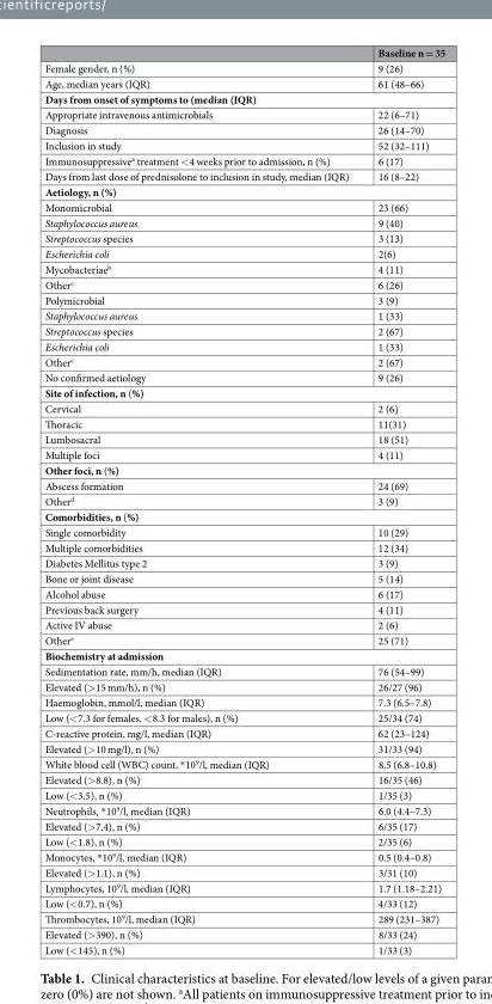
<table><thead><tr><td></td><td>Baseline n = 35</td></tr></thead><tbody><tr><td>Female gender, n (%)</td><td>9 (26)</td></tr><tr><td>Age, median years (IQR)</td><td>61 (48–66)</td></tr><tr><td colspan="2">Days from onset of symptoms to (median (IQR)</td></tr><tr><td>Appropriate intravenous antimicrobials</td><td>22 (6–71)</td></tr><tr><td>Diagnosis</td><td>26 (14–70)</td></tr><tr><td>Inclusion in study</td><td>52 (32–111)</td></tr><tr><td>Immunosuppressive<sup>a</sup> treatment &lt;4 weeks prior to admission, n (%)</td><td>6 (17)</td></tr><tr><td>Days from last dose of prednisolone to inclusion in study, median (IQR)</td><td>16 (8–22)</td></tr><tr><td colspan="2">Aetiology, n (%)</td></tr><tr><td>Monomicrobial</td><td>23 (66)</td></tr><tr><td>Staphylococcus aureus</td><td>9 (40)</td></tr><tr><td>Streptococcus species</td><td>3 (13)</td></tr><tr><td>Escherichia coli</td><td>2(6)</td></tr><tr><td>Mycobacteriae<sup>b</sup></td><td>4 (11)</td></tr><tr><td>Other<sup>c</sup></td><td>6 (26)</td></tr><tr><td>Polymicrobial</td><td>3 (9)</td></tr><tr><td>Staphylococcus aureus</td><td>1 (33)</td></tr><tr><td>Streptococcus species</td><td>2 (67)</td></tr><tr><td>Escherichia coli</td><td>1 (33)</td></tr><tr><td>Other<sup>c</sup></td><td>2 (67)</td></tr><tr><td>No confirmed aetiology</td><td>9 (26)</td></tr><tr><td colspan="2">Site of infection, n (%)</td></tr><tr><td>Cervical</td><td>2 (6)</td></tr><tr><td>Thoracic</td><td>11(31)</td></tr><tr><td>Lumbosacral</td><td>18 (51)</td></tr><tr><td>Multiple foci</td><td>4 (11)</td></tr><tr><td colspan="2">Other foci, n (%)</td></tr><tr><td>Abscess formation</td><td>24 (69)</td></tr><tr><td>Other<sup>d</sup></td><td>3 (9)</td></tr><tr><td colspan="2">Comorbidities, n (%)</td></tr><tr><td>Single comorbidity</td><td>10 (29)</td></tr><tr><td>Multiple comorbidities</td><td>12 (34)</td></tr><tr><td>Diabetes Mellitus type 2</td><td>3 (9)</td></tr><tr><td>Bone or joint disease</td><td>5 (14)</td></tr><tr><td>Alcohol abuse</td><td>6 (17)</td></tr><tr><td>Previous back surgery</td><td>4 (11)</td></tr><tr><td>Active IV abuse</td><td>2 (6)</td></tr><tr><td>Other<sup>e</sup></td><td>25 (71)</td></tr><tr><td colspan="2">Biochemistry at admission</td></tr><tr><td>Sedimentation rate, mm/h, median (IQR)</td><td>76 (54–99)</td></tr><tr><td>Elevated (&gt;15 mm/h), n (%)</td><td>26/27 (96)</td></tr><tr><td>Haemoglobin, mmol/l, median (IQR)</td><td>7.3 (6.5–7.8)</td></tr><tr><td>Low (&lt;7.3 for females, &lt;8.3 for males), n (%)</td><td>25/34 (74)</td></tr><tr><td>C-reactive protein, mg/l, median (IQR)</td><td>62 (23–124)</td></tr><tr><td>Elevated (&gt;10 mg/l), n (%)</td><td>31/33 (94)</td></tr><tr><td>White blood cell (WBC) count, *10<sup>9</sup>/l, median (IQR)</td><td>8.5 (6.8–10.8)</td></tr><tr><td>Elevated (&gt;8.8), n (%)</td><td>16/35 (46)</td></tr><tr><td>Low (&lt;3.5), n (%)</td><td>1/35 (3)</td></tr><tr><td>Neutrophils, *10<sup>9</sup>/l, median (IQR)</td><td>6.0 (4.4–7.3)</td></tr><tr><td>Elevated (&gt;7.4), n (%)</td><td>6/35 (17)</td></tr><tr><td>Low (&lt;1.8), n (%)</td><td>2/35 (6)</td></tr><tr><td>Monocytes, *10<sup>9</sup>/l, median (IQR)</td><td>0.5 (0.4–0.8)</td></tr><tr><td>Elevated (&gt;1.1), n (%)</td><td>3/31 (10)</td></tr><tr><td>Lymphocytes, 10<sup>9</sup>/l, median (IQR)</td><td>1.7 (1.18–2.21)</td></tr><tr><td>Low (&lt;0.7), n (%)</td><td>4/33 (12)</td></tr><tr><td>Thrombocytes, 10<sup>9</sup>/l, median (IQR)</td><td>289 (231–387)</td></tr><tr><td>Elevated (&gt;390), n (%)</td><td>8/33 (24)</td></tr><tr><td>Low (&lt;145), n (%)</td><td>1/33 (3)</td></tr></tbody></table>